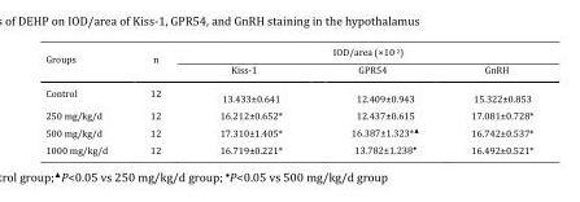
<table><thead><tr><td rowspan="2">Groups</td><td rowspan="2">n</td><td colspan="3">IOD/area (×10<sup>-2</sup>)</td></tr><tr><td>Kiss-1</td><td>GPR54</td><td>GnRH</td></tr></thead><tbody><tr><td>Control</td><td>12</td><td>13.433±0.641</td><td>12.409±0.943</td><td>15.322±0.853</td></tr><tr><td>250 mg/kg/d</td><td>12</td><td>16.212±0.652*</td><td>12.437±0.615</td><td>17.081±0.728*</td></tr><tr><td>500 mg/kg/d</td><td>12</td><td>17.310±1.405*</td><td>16.387±1.323*▲</td><td>16.742±0.537*</td></tr><tr><td>1000 mg/kg/d</td><td>12</td><td>16.719±0.221*</td><td>13.782±1.238●</td><td>16.492±0.521*</td></tr></tbody></table>